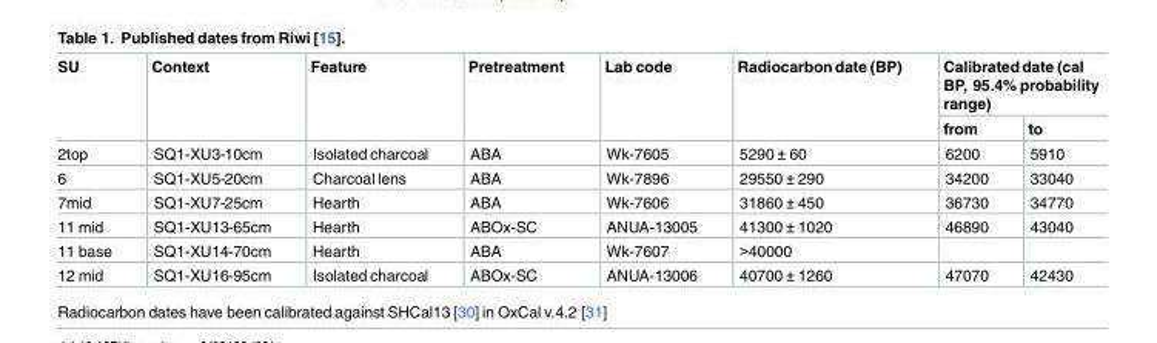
<table><thead><tr><td rowspan="2">SU</td><td rowspan="2">Context</td><td rowspan="2">Feature</td><td rowspan="2">Pretreatment</td><td rowspan="2">Lab code</td><td rowspan="2">Radiocarbon date (BP)</td><td colspan="2">Calibrated date (cal BP, 95.4% probability range)</td></tr><tr><td>from</td><td>to</td></tr></thead><tbody><tr><td>2top</td><td>SQ1-XU3-10cm</td><td>Isolated charcoal</td><td>ABA</td><td>Wk-7605</td><td>5290 ± 60</td><td>6200</td><td>5910</td></tr><tr><td>6</td><td>SQ1-XU5-20cm</td><td>Charcoal lens</td><td>ABA</td><td>Wk-7896</td><td>29550 ± 290</td><td>34200</td><td>33040</td></tr><tr><td>7mid</td><td>SQ1-XU7-25cm</td><td>Hearth</td><td>ABA</td><td>Wk-7606</td><td>31860 ± 450</td><td>36730</td><td>34770</td></tr><tr><td>11 mid</td><td>SQ1-XU13-65cm</td><td>Hearth</td><td>ABOx-SC</td><td>ANUA-13005</td><td>41300 ± 1020</td><td>46890</td><td>43040</td></tr><tr><td>11 base</td><td>SQ1-XU14-70cm</td><td>Hearth</td><td>ABA</td><td>Wk-7607</td><td>&gt;40000</td><td></td><td></td></tr><tr><td>12 mid</td><td>SQ1-XU16-95cm</td><td>Isolated charcoal</td><td>ABOx-SC</td><td>ANUA-13006</td><td>40700 ± 1260</td><td>47070</td><td>42430</td></tr></tbody></table>